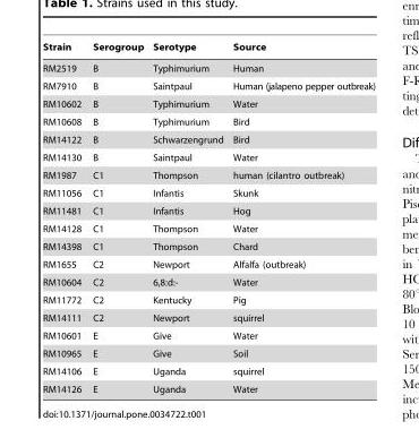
<table><thead><tr><td>Strain</td><td>Serogroup</td><td>Serotype</td><td>Source</td></tr></thead><tbody><tr><td>RM2519</td><td>B</td><td>Typhimurium</td><td>Human</td></tr><tr><td>RM7910</td><td>B</td><td>Saintpaul</td><td>Human (jalapeno pepper outbreak)</td></tr><tr><td>RM10602</td><td>B</td><td>Typhimurium</td><td>Water</td></tr><tr><td>RM10608</td><td>B</td><td>Typhimurium</td><td>Bird</td></tr><tr><td>RM14122</td><td>B</td><td>Schwarzengrund</td><td>Bird</td></tr><tr><td>RM14130</td><td>B</td><td>Saintpaul</td><td>Water</td></tr><tr><td>RM1987</td><td>C1</td><td>Thompson</td><td>human (cilantro outbreak)</td></tr><tr><td>RM11056</td><td>C1</td><td>Infantis</td><td>Skunk</td></tr><tr><td>RM11481</td><td>C1</td><td>Infantis</td><td>Hog</td></tr><tr><td>RM14128</td><td>C1</td><td>Thompson</td><td>Water</td></tr><tr><td>RM14398</td><td>C1</td><td>Thompson</td><td>Chard</td></tr><tr><td>RM1655</td><td>C2</td><td>Newport</td><td>Alfalfa (outbreak)</td></tr><tr><td>RM10604</td><td>C2</td><td>6,8:d:-</td><td>Water</td></tr><tr><td>RM11772</td><td>C2</td><td>Kentucky</td><td>Pig</td></tr><tr><td>RM14111</td><td>C2</td><td>Newport</td><td>squirrel</td></tr><tr><td>RM10601</td><td>E</td><td>Give</td><td>Water</td></tr><tr><td>RM10965</td><td>E</td><td>Give</td><td>Soil</td></tr><tr><td>RM14106</td><td>E</td><td>Uganda</td><td>squirrel</td></tr><tr><td>RM14126</td><td>E</td><td>Uganda</td><td>Water</td></tr></tbody></table>